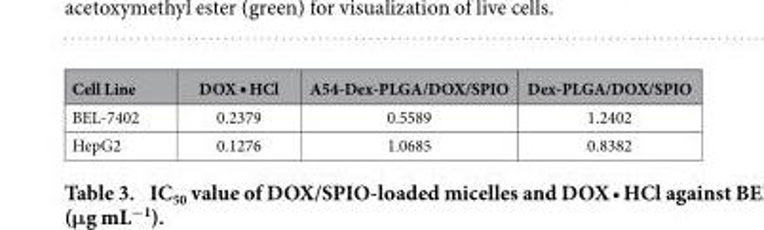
<table><thead><tr><td>Cell Line</td><td>DOX • HCl</td><td>A54-Dex-PLGA/DOX/SPIO</td><td>Dex-PLGA/DOX/SPIO</td></tr></thead><tbody><tr><td>BEL-7402</td><td>0.2379</td><td>0.5589</td><td>1.2402</td></tr><tr><td>HepG2</td><td>0.1276</td><td>1.0685</td><td>0.8382</td></tr></tbody></table>